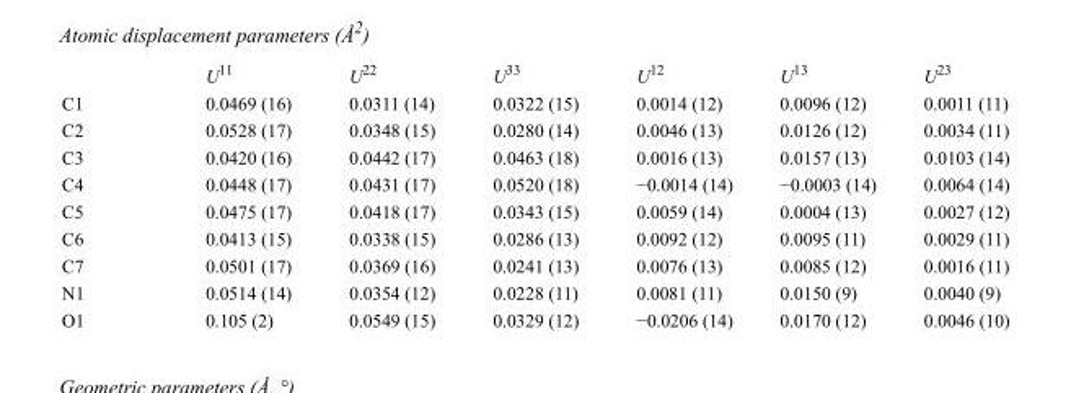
<table><thead><tr><td></td><td>U<sup>11</sup></td><td>U<sup>22</sup></td><td>U<sup>33</sup></td><td>U<sup>12</sup></td><td>U<sup>13</sup></td><td>U<sup>23</sup></td></tr></thead><tbody><tr><td>C1</td><td>0.0469 (16)</td><td>0.0311 (14)</td><td>0.0322 (15)</td><td>0.0014 (12)</td><td>0.0096 (12)</td><td>0.0011 (11)</td></tr><tr><td>C2</td><td>0.0528 (17)</td><td>0.0348 (15)</td><td>0.0280 (14)</td><td>0.0046 (13)</td><td>0.0126 (12)</td><td>0.0034 (11)</td></tr><tr><td>C3</td><td>0.0420 (16)</td><td>0.0442 (17)</td><td>0.0463 (18)</td><td>0.0016 (13)</td><td>0.0157 (13)</td><td>0.0103 (14)</td></tr><tr><td>C4</td><td>0.0448 (17)</td><td>0.0431 (17)</td><td>0.0520 (18)</td><td>−0.0014 (14)</td><td>−0.0003 (14)</td><td>0.0064 (14)</td></tr><tr><td>C5</td><td>0.0475 (17)</td><td>0.0418 (17)</td><td>0.0343 (15)</td><td>0.0059 (14)</td><td>0.0004 (13)</td><td>0.0027 (12)</td></tr><tr><td>C6</td><td>0.0413 (15)</td><td>0.0338 (15)</td><td>0.0286 (13)</td><td>0.0092 (12)</td><td>0.0095 (11)</td><td>0.0029 (11)</td></tr><tr><td>C7</td><td>0.0501 (17)</td><td>0.0369 (16)</td><td>0.0241 (13)</td><td>0.0076 (13)</td><td>0.0085 (12)</td><td>0.0016 (11)</td></tr><tr><td>N1</td><td>0.0514 (14)</td><td>0.0354 (12)</td><td>0.0228 (11)</td><td>0.0081 (11)</td><td>0.0150 (9)</td><td>0.0040 (9)</td></tr><tr><td>O1</td><td>0.105 (2)</td><td>0.0549 (15)</td><td>0.0329 (12)</td><td>−0.0206 (14)</td><td>0.0170 (12)</td><td>0.0046 (10)</td></tr></tbody></table>